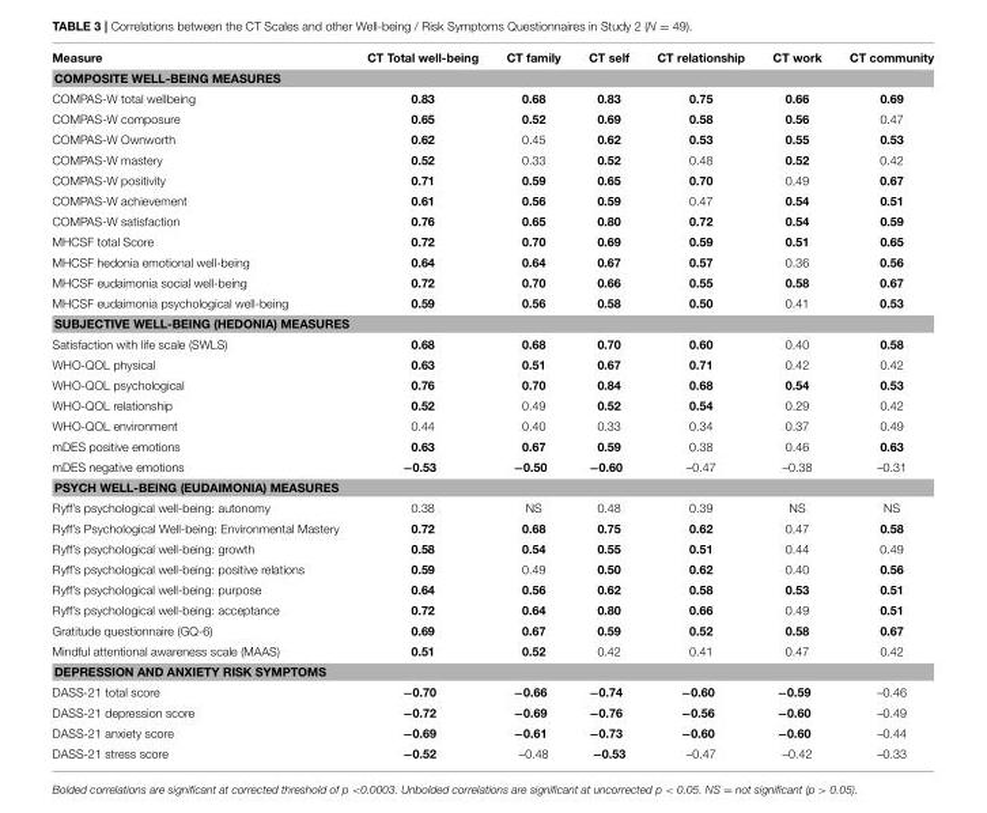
<table><thead><tr><td>Measure</td><td>CT Total well-being</td><td>CT family</td><td>CT self</td><td>CT relationship</td><td>CT work</td><td>CT community</td></tr></thead><tbody><tr><td colspan="7">COMPOSITE WELL-BEING MEASURES</td></tr><tr><td>COMPAS-W total wellbeing</td><td>0.83</td><td>0.68</td><td>0.83</td><td>0.75</td><td>0.66</td><td>0.69</td></tr><tr><td>COMPAS-W composure</td><td>0.65</td><td>0.52</td><td>0.69</td><td>0.58</td><td>0.56</td><td>0.47</td></tr><tr><td>COMPAS-W Ownworth</td><td>0.62</td><td>0.45</td><td>0.62</td><td>0.53</td><td>0.55</td><td>0.53</td></tr><tr><td>COMPAS-W mastery</td><td>0.52</td><td>0.33</td><td>0.52</td><td>0.48</td><td>0.52</td><td>0.42</td></tr><tr><td>COMPAS-W positivity</td><td>0.71</td><td>0.59</td><td>0.65</td><td>0.70</td><td>0.49</td><td>0.67</td></tr><tr><td>COMPAS-W achievement</td><td>0.61</td><td>0.56</td><td>0.59</td><td>0.47</td><td>0.54</td><td>0.51</td></tr><tr><td>COMPAS-W satisfaction</td><td>0.76</td><td>0.65</td><td>0.80</td><td>0.72</td><td>0.54</td><td>0.59</td></tr><tr><td>MHCSF total Score</td><td>0.72</td><td>0.70</td><td>0.69</td><td>0.59</td><td>0.51</td><td>0.65</td></tr><tr><td>MHCSF hedonia emotional well-being</td><td>0.64</td><td>0.64</td><td>0.67</td><td>0.57</td><td>0.36</td><td>0.56</td></tr><tr><td>MHCSF eudaimonia social well-being</td><td>0.72</td><td>0.70</td><td>0.66</td><td>0.55</td><td>0.58</td><td>0.67</td></tr><tr><td>MHCSF eudaimonia psychological well-being</td><td>0.59</td><td>0.56</td><td>0.58</td><td>0.50</td><td>0.41</td><td>0.53</td></tr><tr><td colspan="7">SUBJECTIVE WELL-BEING (HEDONIA) MEASURES</td></tr><tr><td>Satisfaction with life scale (SWLS)</td><td>0.68</td><td>0.68</td><td>0.70</td><td>0.60</td><td>0.40</td><td>0.58</td></tr><tr><td>WHO-QOL physical</td><td>0.63</td><td>0.51</td><td>0.67</td><td>0.71</td><td>0.42</td><td>0.42</td></tr><tr><td>WHO-QOL psychological</td><td>0.76</td><td>0.70</td><td>0.84</td><td>0.68</td><td>0.54</td><td>0.53</td></tr><tr><td>WHO-QOL relationship</td><td>0.52</td><td>0.49</td><td>0.52</td><td>0.54</td><td>0.29</td><td>0.42</td></tr><tr><td>WHO-QOL environment</td><td>0.44</td><td>0.40</td><td>0.33</td><td>0.34</td><td>0.37</td><td>0.49</td></tr><tr><td>mDES positive emotions</td><td>0.63</td><td>0.67</td><td>0.59</td><td>0.38</td><td>0.46</td><td>0.63</td></tr><tr><td>mDES negative emotions</td><td>−0.53</td><td>−0.50</td><td>−0.60</td><td>–0.47</td><td>–0.38</td><td>–0.31</td></tr><tr><td colspan="7">PSYCH WELL-BEING (EUDAIMONIA) MEASURES</td></tr><tr><td>Ryff’s psychological well-being: autonomy</td><td>0.38</td><td>NS</td><td>0.48</td><td>0.39</td><td>NS</td><td>NS</td></tr><tr><td>Ryff’s Psychological Well-being: Environmental Mastery</td><td>0.72</td><td>0.68</td><td>0.75</td><td>0.62</td><td>0.47</td><td>0.58</td></tr><tr><td>Ryff’s psychological well-being: growth</td><td>0.58</td><td>0.54</td><td>0.55</td><td>0.51</td><td>0.44</td><td>0.49</td></tr><tr><td>Ryff’s psychological well-being: positive relations</td><td>0.59</td><td>0.49</td><td>0.50</td><td>0.62</td><td>0.40</td><td>0.56</td></tr><tr><td>Ryff’s psychological well-being: purpose</td><td>0.64</td><td>0.56</td><td>0.62</td><td>0.58</td><td>0.53</td><td>0.51</td></tr><tr><td>Ryff’s psychological well-being: acceptance</td><td>0.72</td><td>0.64</td><td>0.80</td><td>0.66</td><td>0.49</td><td>0.51</td></tr><tr><td>Gratitude questionnaire (GQ-6)</td><td>0.69</td><td>0.67</td><td>0.59</td><td>0.52</td><td>0.58</td><td>0.67</td></tr><tr><td>Mindful attentional awareness scale (MAAS)</td><td>0.51</td><td>0.52</td><td>0.42</td><td>0.41</td><td>0.47</td><td>0.42</td></tr><tr><td colspan="7">DEPRESSION AND ANXIETY RISK SYMPTOMS</td></tr><tr><td>DASS-21 total score</td><td>−0.70</td><td>−0.66</td><td>−0.74</td><td>−0.60</td><td>−0.59</td><td>–0.46</td></tr><tr><td>DASS-21 depression score</td><td>−0.72</td><td>−0.69</td><td>−0.76</td><td>−0.56</td><td>−0.60</td><td>–0.49</td></tr><tr><td>DASS-21 anxiety score</td><td>−0.69</td><td>−0.61</td><td>−0.73</td><td>−0.60</td><td>−0.60</td><td>–0.44</td></tr><tr><td>DASS-21 stress score</td><td>−0.52</td><td>–0.48</td><td>−0.53</td><td>–0.47</td><td>–0.42</td><td>–0.33</td></tr></tbody></table>